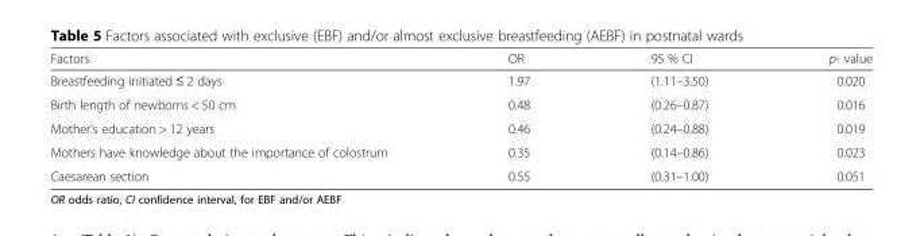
<table><thead><tr><td>Factors</td><td>OR</td><td>95 % CI</td><td>p- value</td></tr></thead><tbody><tr><td>Breastfeeding initiated ≤ 2 days</td><td>1.97</td><td>(1.11–3.50)</td><td>0.020</td></tr><tr><td>Birth length of newborns &lt; 50 cm</td><td>0.48</td><td>(0.26–0.87)</td><td>0.016</td></tr><tr><td>Mother’s education &gt; 12 years</td><td>0.46</td><td>(0.24–0.88)</td><td>0.019</td></tr><tr><td>Mothers have knowledge about the importance of colostrum</td><td>0.35</td><td>(0.14–0.86)</td><td>0.023</td></tr><tr><td>Caesarean section</td><td>0.55</td><td>(0.31–1.00)</td><td>0.051</td></tr></tbody></table>